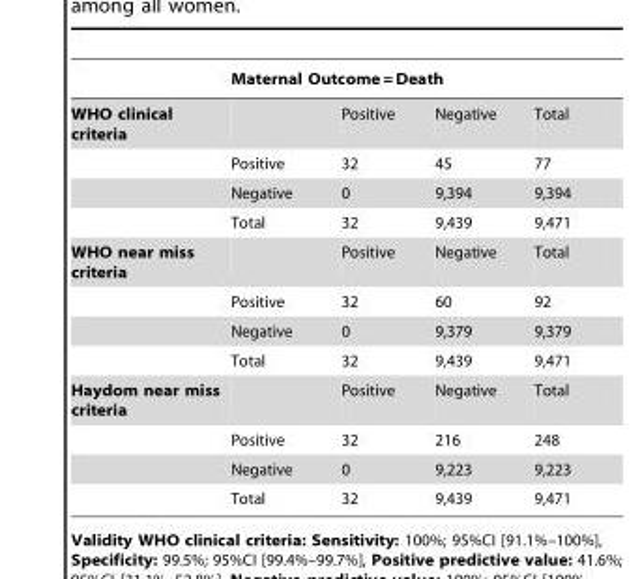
<table><thead><tr><td rowspan="2">WHO clinical criteria</td><td colspan="4">Maternal Outcome = Death</td></tr><tr><td></td><td>Positive</td><td>Negative</td><td>Total</td></tr></thead><tbody><tr><td></td><td>Positive</td><td>32</td><td>45</td><td>77</td></tr><tr><td></td><td>Negative</td><td>0</td><td>9,394</td><td>9,394</td></tr><tr><td></td><td>Total</td><td>32</td><td>9,439</td><td>9,471</td></tr><tr><td rowspan="4">WHO near miss criteria</td><td></td><td>Positive</td><td>Negative</td><td>Total</td></tr><tr><td>Positive</td><td>32</td><td>60</td><td>92</td></tr><tr><td>Negative</td><td>0</td><td>9,379</td><td>9,379</td></tr><tr><td>Total</td><td>32</td><td>9,439</td><td>9,471</td></tr><tr><td rowspan="4">Haydom near miss criteria</td><td></td><td>Positive</td><td>Negative</td><td>Total</td></tr><tr><td>Positive</td><td>32</td><td>216</td><td>248</td></tr><tr><td>Negative</td><td>0</td><td>9,223</td><td>9,223</td></tr><tr><td>Total</td><td>32</td><td>9,439</td><td>9,471</td></tr></tbody></table>